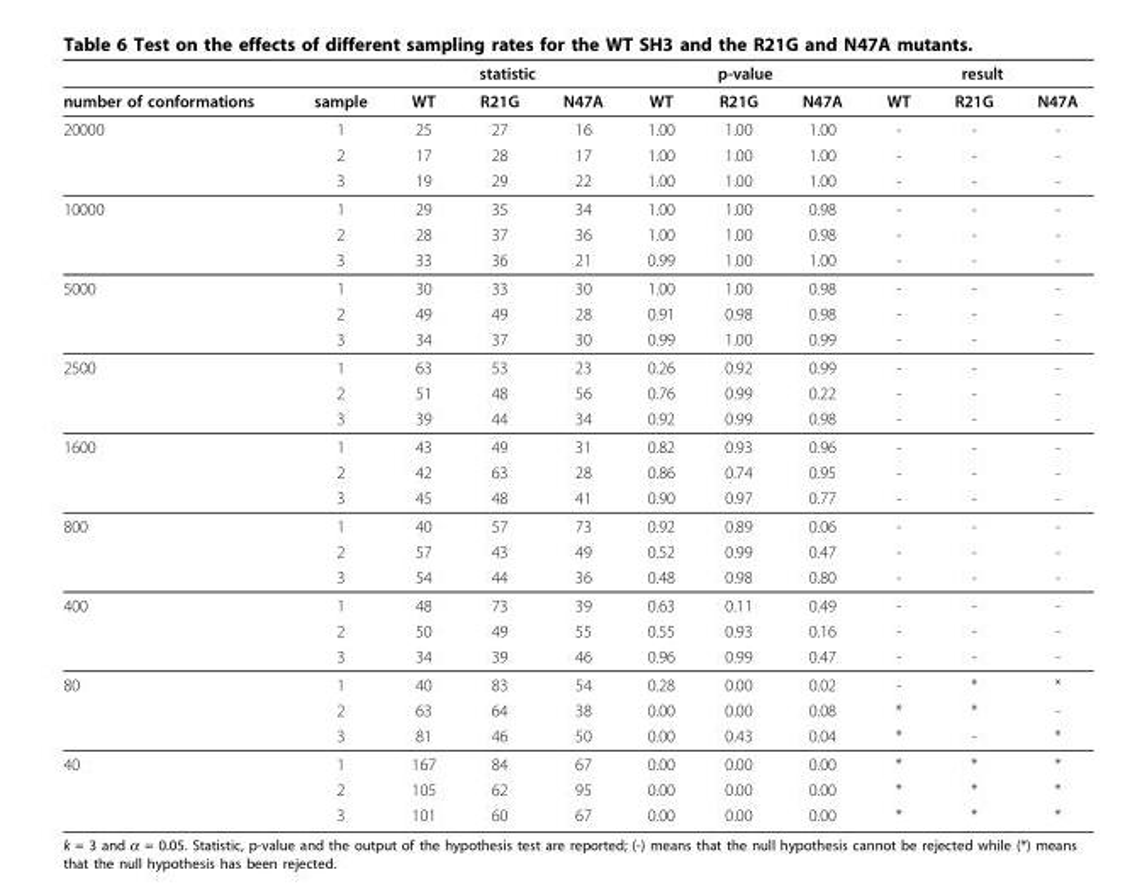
<table><thead><tr><td rowspan="2">number of conformations</td><td rowspan="2">sample</td><td colspan="3">statistic</td><td colspan="3">p-value</td><td colspan="3">result</td></tr><tr><td>WT</td><td>R21G</td><td>N47A</td><td>WT</td><td>R21G</td><td>N47A</td><td>WT</td><td>R21G</td><td>N47A</td></tr></thead><tbody><tr><td rowspan="3">20000</td><td>1</td><td>25</td><td>27</td><td>16</td><td>1.00</td><td>1.00</td><td>1.00</td><td>-</td><td>-</td><td>-</td></tr><tr><td>2</td><td>17</td><td>28</td><td>17</td><td>1.00</td><td>1.00</td><td>1.00</td><td>-</td><td>-</td><td>-</td></tr><tr><td>3</td><td>19</td><td>29</td><td>22</td><td>1.00</td><td>1.00</td><td>1.00</td><td>-</td><td>-</td><td>-</td></tr><tr><td rowspan="3">10000</td><td>1</td><td>29</td><td>35</td><td>34</td><td>1.00</td><td>1.00</td><td>0.98</td><td>-</td><td>-</td><td>-</td></tr><tr><td>2</td><td>28</td><td>37</td><td>36</td><td>1.00</td><td>1.00</td><td>0.98</td><td>-</td><td>-</td><td>-</td></tr><tr><td>3</td><td>33</td><td>36</td><td>21</td><td>0.99</td><td>1.00</td><td>1.00</td><td>-</td><td>-</td><td>-</td></tr><tr><td rowspan="3">5000</td><td>1</td><td>30</td><td>33</td><td>30</td><td>1.00</td><td>1.00</td><td>0.98</td><td>-</td><td>-</td><td>-</td></tr><tr><td>2</td><td>49</td><td>49</td><td>28</td><td>0.91</td><td>0.98</td><td>0.98</td><td>-</td><td>-</td><td>-</td></tr><tr><td>3</td><td>34</td><td>37</td><td>30</td><td>0.99</td><td>1.00</td><td>0.99</td><td>-</td><td>-</td><td>-</td></tr><tr><td rowspan="3">2500</td><td>1</td><td>63</td><td>53</td><td>23</td><td>0.26</td><td>0.92</td><td>0.99</td><td>-</td><td>-</td><td>-</td></tr><tr><td>2</td><td>51</td><td>48</td><td>56</td><td>0.76</td><td>0.99</td><td>0.22</td><td>-</td><td>-</td><td>-</td></tr><tr><td>3</td><td>39</td><td>44</td><td>34</td><td>0.92</td><td>0.99</td><td>0.98</td><td>-</td><td>-</td><td>-</td></tr><tr><td rowspan="3">1600</td><td>1</td><td>43</td><td>49</td><td>31</td><td>0.82</td><td>0.93</td><td>0.96</td><td>-</td><td>-</td><td>-</td></tr><tr><td>2</td><td>42</td><td>63</td><td>28</td><td>0.86</td><td>0.74</td><td>0.95</td><td>-</td><td>-</td><td>-</td></tr><tr><td>3</td><td>45</td><td>48</td><td>41</td><td>0.90</td><td>0.97</td><td>0.77</td><td>-</td><td>-</td><td>-</td></tr><tr><td rowspan="3">800</td><td>1</td><td>40</td><td>57</td><td>73</td><td>0.92</td><td>0.89</td><td>0.06</td><td>-</td><td>-</td><td>-</td></tr><tr><td>2</td><td>57</td><td>43</td><td>49</td><td>0.52</td><td>0.99</td><td>0.47</td><td>-</td><td>-</td><td>-</td></tr><tr><td>3</td><td>54</td><td>44</td><td>36</td><td>0.48</td><td>0.98</td><td>0.80</td><td>-</td><td>-</td><td>-</td></tr><tr><td rowspan="3">400</td><td>1</td><td>48</td><td>73</td><td>39</td><td>0.63</td><td>0.11</td><td>0.49</td><td>-</td><td>-</td><td>-</td></tr><tr><td>2</td><td>50</td><td>49</td><td>55</td><td>0.55</td><td>0.93</td><td>0.16</td><td>-</td><td>-</td><td>-</td></tr><tr><td>3</td><td>34</td><td>39</td><td>46</td><td>0.96</td><td>0.99</td><td>0.47</td><td>-</td><td>-</td><td>-</td></tr><tr><td rowspan="3">80</td><td>1</td><td>40</td><td>83</td><td>54</td><td>0.28</td><td>0.00</td><td>0.02</td><td>-</td><td>*</td><td>*</td></tr><tr><td>2</td><td>63</td><td>64</td><td>38</td><td>0.00</td><td>0.00</td><td>0.08</td><td>*</td><td>*</td><td>-</td></tr><tr><td>3</td><td>81</td><td>46</td><td>50</td><td>0.00</td><td>0.43</td><td>0.04</td><td>*</td><td>-</td><td>*</td></tr><tr><td rowspan="3">40</td><td>1</td><td>167</td><td>84</td><td>67</td><td>0.00</td><td>0.00</td><td>0.00</td><td>*</td><td>*</td><td>*</td></tr><tr><td>2</td><td>105</td><td>62</td><td>95</td><td>0.00</td><td>0.00</td><td>0.00</td><td>*</td><td>*</td><td>*</td></tr><tr><td>3</td><td>101</td><td>60</td><td>67</td><td>0.00</td><td>0.00</td><td>0.00</td><td>*</td><td>*</td><td>*</td></tr></tbody></table>